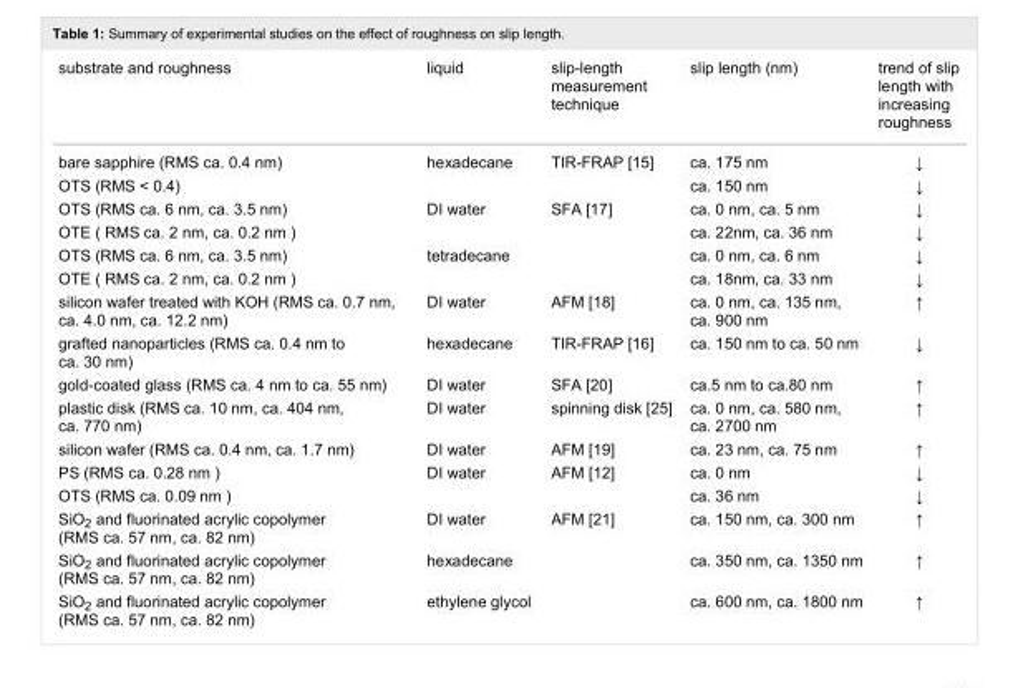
<table><tbody><tr><td>substrate and roughness</td><td>liquid</td><td>slip-length measurement technique</td><td>slip length (nm)</td><td>trend of slip length with increasing roughness</td></tr><tr><td>bare sapphire (RMS ca. 0.4 nm)</td><td rowspan="2">hexadecane</td><td rowspan="2">TIR-FRAP [15]</td><td>ca. 175 nm</td><td>↓</td></tr><tr><td>OTS (RMS &lt; 0.4)</td><td>ca. 150 nm</td><td>↓</td></tr><tr><td>OTS (RMS ca. 6 nm, ca. 3.5 nm)</td><td rowspan="2">DI water</td><td rowspan="4">SFA [17]</td><td>ca. 0 nm, ca. 5 nm</td><td>↓</td></tr><tr><td>OTE ( RMS ca. 2 nm, ca. 0.2 nm )</td><td>ca. 22nm, ca. 36 nm</td><td>↓</td></tr><tr><td>OTS (RMS ca. 6 nm, ca. 3.5 nm)</td><td rowspan="2">tetradecane</td><td>ca. 0 nm, ca. 6 nm</td><td>↓</td></tr><tr><td>OTE ( RMS ca. 2 nm, ca. 0.2 nm )</td><td>ca. 18nm, ca. 33 nm</td><td>↓</td></tr><tr><td>silicon wafer treated with KOH (RMS ca. 0.7 nm, ca. 4.0 nm, ca. 12.2 nm)</td><td>DI water</td><td>AFM [18]</td><td>ca. 0 nm, ca. 135 nm, ca. 900 nm</td><td>↑</td></tr><tr><td>grafted nanoparticles (RMS ca. 0.4 nm to ca. 30 nm)</td><td>hexadecane</td><td>TIR-FRAP [16]</td><td>ca. 150 nm to ca. 50 nm</td><td>↓</td></tr><tr><td>gold-coated glass (RMS ca. 4 nm to ca. 55 nm)</td><td>DI water</td><td>SFA [20]</td><td>ca.5 nm to ca.80 nm</td><td>↑</td></tr><tr><td>plastic disk (RMS ca. 10 nm, ca. 404 nm, ca. 770 nm)</td><td>DI water</td><td>spinning disk [25]</td><td>ca. 0 nm, ca. 580 nm, ca. 2700 nm</td><td>↑</td></tr><tr><td>silicon wafer (RMS ca. 0.4 nm, ca. 1.7 nm)</td><td>DI water</td><td>AFM [19]</td><td>ca. 23 nm, ca. 75 nm</td><td>↑</td></tr><tr><td>PS (RMS ca. 0.28 nm )</td><td rowspan="2">DI water</td><td rowspan="2">AFM [12]</td><td>ca. 0 nm</td><td>↓</td></tr><tr><td>OTS (RMS ca. 0.09 nm )</td><td>ca. 36 nm</td><td>↓</td></tr><tr><td>SiO<sub>2</sub> and fluorinated acrylic copolymer (RMS ca. 57 nm, ca. 82 nm)</td><td>DI water</td><td rowspan="3">AFM [21]</td><td>ca. 150 nm, ca. 300 nm</td><td>↑</td></tr><tr><td>SiO<sub>2</sub> and fluorinated acrylic copolymer (RMS ca. 57 nm, ca. 82 nm)</td><td>hexadecane</td><td>ca. 350 nm, ca. 1350 nm</td><td>↑</td></tr><tr><td>SiO<sub>2</sub> and fluorinated acrylic copolymer (RMS ca. 57 nm, ca. 82 nm)</td><td>ethylene glycol</td><td>ca. 600 nm, ca. 1800 nm</td><td>↑</td></tr></tbody></table>